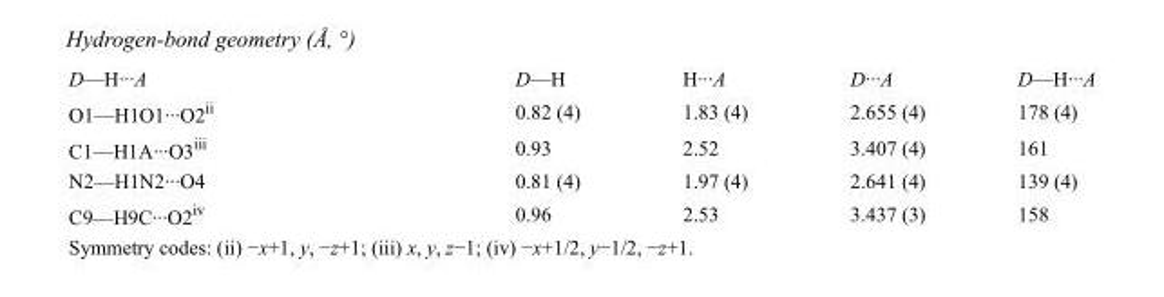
<table><tbody><tr><td>D—H···A</td><td>D—H</td><td>H···A</td><td>D···A</td><td>D—H···A</td></tr><tr><td>O1—H1O1···O2<sup>ii</sup></td><td>0.82 (4)</td><td>1.83 (4)</td><td>2.655 (4)</td><td>178 (4)</td></tr><tr><td>C1—H1A···O3<sup>iii</sup></td><td>0.93</td><td>2.52</td><td>3.407 (4)</td><td>161</td></tr><tr><td>N2—H1N2···O4</td><td>0.81 (4)</td><td>1.97 (4)</td><td>2.641 (4)</td><td>139 (4)</td></tr><tr><td>C9—H9C···O2<sup>iv</sup></td><td>0.96</td><td>2.53</td><td>3.437 (3)</td><td>158</td></tr></tbody></table>